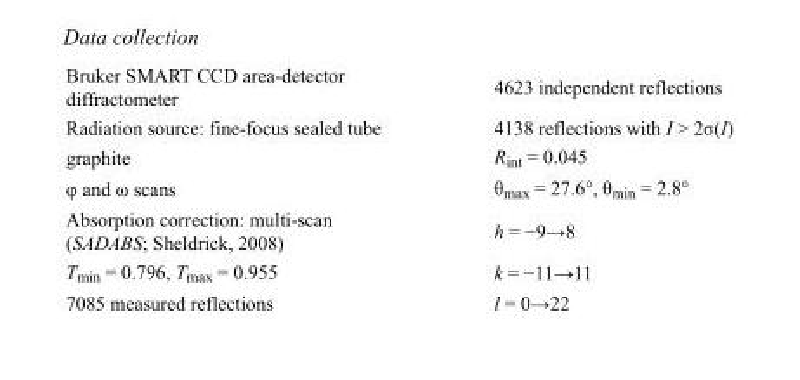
<table><tbody><tr><td>Bruker SMART CCD area-detector diffractometer</td><td>4623 independent reflections</td></tr><tr><td>Radiation source: fine-focus sealed tube</td><td>4138 reflections with I &gt; 2σ(I)</td></tr><tr><td>graphite</td><td>R<sub>int</sub> = 0.045</td></tr><tr><td>φ and ω scans</td><td>θ<sub>max</sub> = 27.6°, θ<sub>min</sub> = 2.8°</td></tr><tr><td>Absorption correction: multi-scan (SADABS; Sheldrick, 2008)</td><td>h = −9→8</td></tr><tr><td>T<sub>min</sub> = 0.796, T<sub>max</sub> = 0.955</td><td>k = −11→11</td></tr><tr><td>7085 measured reflections</td><td>l = 0→22</td></tr></tbody></table>